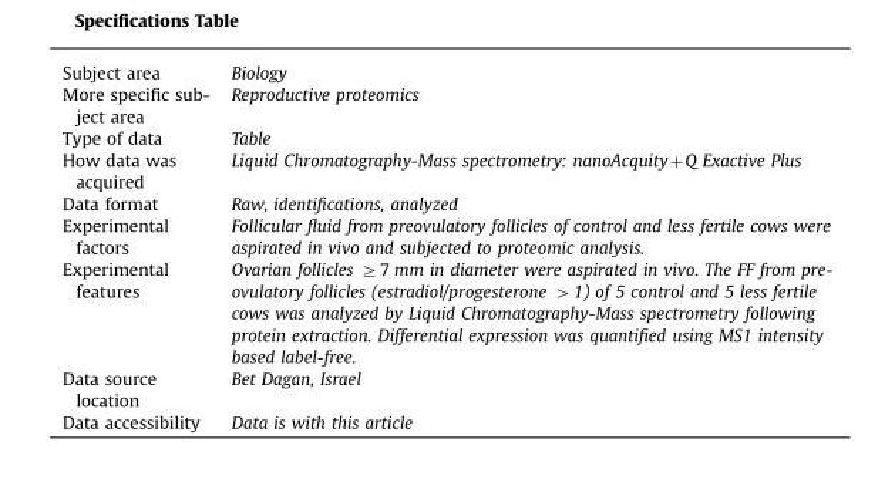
<table><tbody><tr><td>Subject area</td><td>Biology</td></tr><tr><td>More specific sub- ject area</td><td>Reproductive proteomics</td></tr><tr><td>Type of data</td><td>Table</td></tr><tr><td>How data was acquired</td><td>Liquid Chromatography-Mass spectrometry: nanoAcquity+Q Exactive Plus</td></tr><tr><td>Data format</td><td>Raw, identifications, analyzed</td></tr><tr><td>Experimental factors</td><td>Follicular fluid from preovulatory follicles of control and less fertile cows were aspirated in vivo and subjected to proteomic analysis.</td></tr><tr><td>Experimental features</td><td>Ovarian follicles Z7 mm in diameter were aspirated in vivo. The FF from pre- ovulatory follicles (estradiol/progesterone 41) of 5 control and 5 less fertile cows was analyzed by Liquid Chromatography-Mass spectrometry following protein extraction. Differential expression was quantified using MS1 intensity based label-free.</td></tr><tr><td>Data source location</td><td>Bet Dagan, Israel</td></tr><tr><td>Data accessibility</td><td>Data is with this article</td></tr></tbody></table>